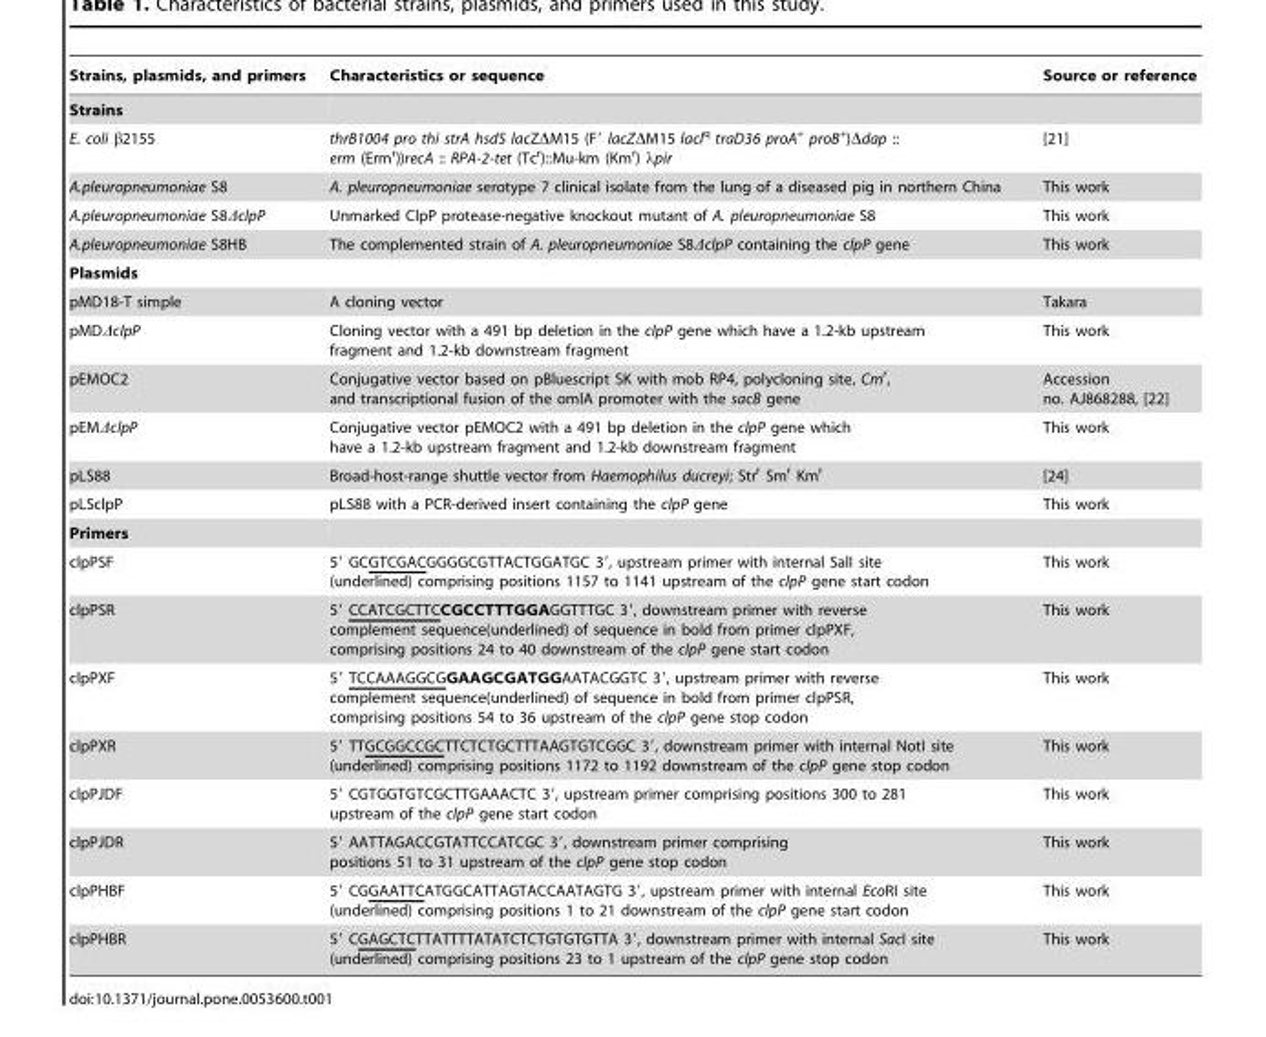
<table><thead><tr><td>Strains, plasmids, and primers</td><td>Characteristics or sequence</td><td>Source or reference</td></tr></thead><tbody><tr><td colspan="3">Strains</td></tr><tr><td>E. coli β2155</td><td>thrB1004 pro thi strA hsdS lacZΔM15 (F′ lacZΔM15 lacl<sup>q</sup> traD36 proA<sup>+</sup> proB<sup>+</sup>)Δdap :: erm (Erm<sup>r</sup>))recA :: RPA-2-tet (Tc<sup>r</sup>)::Mu-km (Km<sup>r</sup>) λpir</td><td>[21]</td></tr><tr><td>A.pleuropneumoniae S8</td><td>A. pleuropneumoniae serotype 7 clinical isolate from the lung of a diseased pig in northern China</td><td>This work</td></tr><tr><td>A.pleuropneumoniae S8ΔclpP</td><td>Unmarked ClpP protease-negative knockout mutant of A. pleuropneumoniae S8</td><td>This work</td></tr><tr><td>A.pleuropneumoniae S8HB</td><td>The complemented strain of A. pleuropneumoniae S8ΔclpP containing the clpP gene</td><td>This work</td></tr><tr><td colspan="3">Plasmids</td></tr><tr><td>pMD18-T simple</td><td>A cloning vector</td><td>Takara</td></tr><tr><td>pMDΔclpP</td><td>Cloning vector with a 491 bp deletion in the clpP gene which have a 1.2-kb upstream fragment and 1.2-kb downstream fragment</td><td>This work</td></tr><tr><td>pEMOC2</td><td>Conjugative vector based on pBluescript SK with mob RP4, polycloning site, Cm<sup>r</sup>, and transcriptional fusion of the omlA promoter with the sacB gene</td><td>Accession no. AJ868288, [22]</td></tr><tr><td>pEMΔclpP</td><td>Conjugative vector pEMOC2 with a 491 bp deletion in the clpP gene which have a 1.2-kb upstream fragment and 1.2-kb downstream fragment</td><td>This work</td></tr><tr><td>pLS88</td><td>Broad-host-range shuttle vector from Haemophilus ducreyi; Str<sup>r</sup> Sm<sup>r</sup> Km<sup>r</sup></td><td>[24]</td></tr><tr><td>pLSclpP</td><td>pLS88 with a PCR-derived insert containing the clpP gene</td><td>This work</td></tr><tr><td colspan="3">Primers</td></tr><tr><td>clpPSF</td><td>5′ GCGTCGACGGGGCGTTACTGGATGC 3′, upstream primer with internal SalI site (underlined) comprising positions 1157 to 1141 upstream of the clpP gene start codon</td><td>This work</td></tr><tr><td>clpPSR</td><td>5′ CCATCGCTTCCGCCTTTGGAGGTTTGC 3′, downstream primer with reverse complement sequence(underlined) of sequence in bold from primer clpPXF, comprising positions 24 to 40 downstream of the clpP gene start codon</td><td>This work</td></tr><tr><td>clpPXF</td><td>5′ TCCAAAGGCGGAAGCGATGGAATACGGTC 3′, upstream primer with reverse complement sequence(underlined) of sequence in bold from primer clpPSR, comprising positions 54 to 36 upstream of the clpP gene stop codon</td><td>This work</td></tr><tr><td>clpPXR</td><td>5′ TTGCGGCCGCTTCTCTGCTTTAAGTGTCGGC 3′, downstream primer with internal NotI site (underlined) comprising positions 1172 to 1192 downstream of the clpP gene stop codon</td><td>This work</td></tr><tr><td>clpPJDF</td><td>5′ CGTGGTGTCGCTTGAAACTC 3′, upstream primer comprising positions 300 to 281 upstream of the clpP gene start codon</td><td>This work</td></tr><tr><td>clpPJDR</td><td>5′ AATTAGACCGTATTCCATCGC 3′, downstream primer comprising positions 51 to 31 upstream of the clpP gene stop codon</td><td>This work</td></tr><tr><td>clpPHBF</td><td>5′ CGGAATTCATGGCATTAGTACCAATAGTG 3′, upstream primer with internal EcoRI site (underlined) comprising positions 1 to 21 downstream of the clpP gene start codon</td><td>This work</td></tr><tr><td>clpPHBR</td><td>5′ CGAGCTCTTATTTTATATCTCTGTGTGTTA 3′, downstream primer with internal SacI site (underlined) comprising positions 23 to 1 upstream of the clpP gene stop codon</td><td>This work</td></tr></tbody></table>